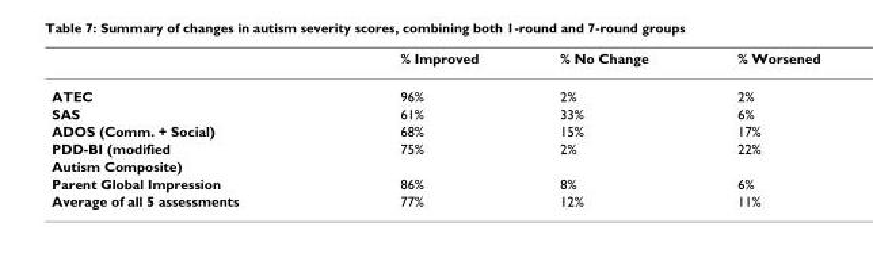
<table><thead><tr><td></td><td>% Improved</td><td>% No Change</td><td>% Worsened</td></tr></thead><tbody><tr><td>ATEC</td><td>96%</td><td>2%</td><td>2%</td></tr><tr><td>SAS</td><td>61%</td><td>33%</td><td>6%</td></tr><tr><td>ADOS (Comm. + Social)</td><td>68%</td><td>15%</td><td>17%</td></tr><tr><td>PDD-BI (modified</td><td>75%</td><td>2%</td><td>22%</td></tr><tr><td colspan="4">Autism Composite)</td></tr><tr><td>Parent Global Impression</td><td>86%</td><td>8%</td><td>6%</td></tr><tr><td>Average of all 5 assessments</td><td>77%</td><td>12%</td><td>11%</td></tr></tbody></table>